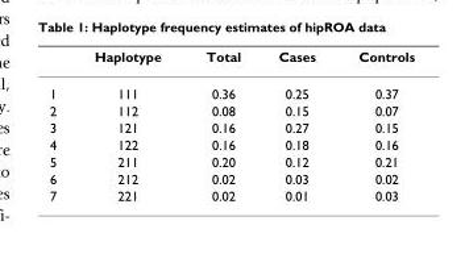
<table><thead><tr><td></td><td>Haplotype</td><td>Total</td><td>Cases</td><td>Controls</td></tr></thead><tbody><tr><td>1</td><td>111</td><td>0.36</td><td>0.25</td><td>0.37</td></tr><tr><td>2</td><td>112</td><td>0.08</td><td>0.15</td><td>0.07</td></tr><tr><td>3</td><td>121</td><td>0.16</td><td>0.27</td><td>0.15</td></tr><tr><td>4</td><td>122</td><td>0.16</td><td>0.18</td><td>0.16</td></tr><tr><td>5</td><td>211</td><td>0.20</td><td>0.12</td><td>0.21</td></tr><tr><td>6</td><td>212</td><td>0.02</td><td>0.03</td><td>0.02</td></tr><tr><td>7</td><td>221</td><td>0.02</td><td>0.01</td><td>0.03</td></tr></tbody></table>